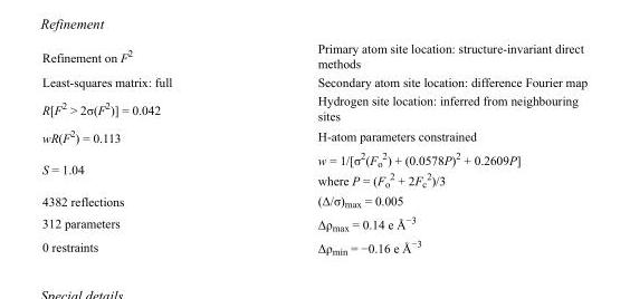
<table><tbody><tr><td>Refinement on F<sup>2</sup></td><td>Primary atom site location: structure-invariant direct methods</td></tr><tr><td>Least-squares matrix: full</td><td>Secondary atom site location: difference Fourier map</td></tr><tr><td>R[F<sup>2</sup> &gt; 2σ(F<sup>2</sup>)] = 0.042</td><td>Hydrogen site location: inferred from neighbouring sites</td></tr><tr><td>wR(F<sup>2</sup>) = 0.113</td><td>H-atom parameters constrained</td></tr><tr><td>S = 1.04</td><td>w = 1/[σ<sup>2</sup>(F<sub>o</sub> <sup>2</sup>) + (0.0578P)<sup>2</sup> + 0.2609P] where P = (F<sub>o</sub> <sup>2</sup> + 2F<sub>c</sub> <sup>2</sup>)/3</td></tr><tr><td>4382 reflections</td><td>(Δ/σ)<sub>max</sub> = 0.005</td></tr><tr><td>312 parameters</td><td>Δρ<sub>max</sub> = 0.14 e Å<sup>−3</sup></td></tr><tr><td>0 restraints</td><td>Δρ<sub>min</sub> = −0.16 e Å<sup>−3</sup></td></tr></tbody></table>